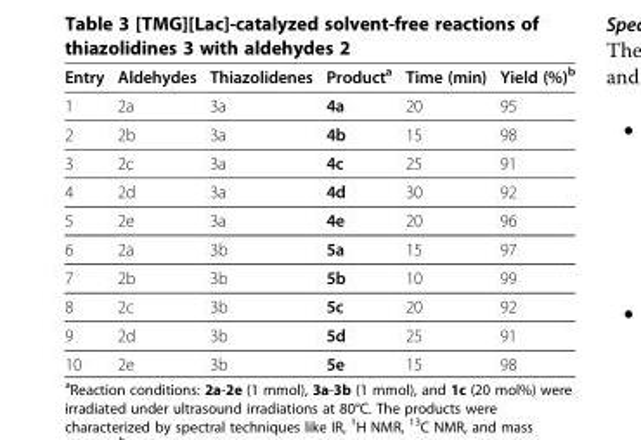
<table><thead><tr><td>Entry</td><td>Aldehydes</td><td>Thiazolidenes</td><td>Product<sup>a</sup></td><td>Time (min)</td><td>Yield (%)<sup>b</sup></td></tr></thead><tbody><tr><td>1</td><td>2a</td><td>3a</td><td>4a</td><td>20</td><td>95</td></tr><tr><td>2</td><td>2b</td><td>3a</td><td>4b</td><td>15</td><td>98</td></tr><tr><td>3</td><td>2c</td><td>3a</td><td>4c</td><td>25</td><td>91</td></tr><tr><td>4</td><td>2d</td><td>3a</td><td>4d</td><td>30</td><td>92</td></tr><tr><td>5</td><td>2e</td><td>3a</td><td>4e</td><td>20</td><td>96</td></tr><tr><td>6</td><td>2a</td><td>3b</td><td>5a</td><td>15</td><td>97</td></tr><tr><td>7</td><td>2b</td><td>3b</td><td>5b</td><td>10</td><td>99</td></tr><tr><td>8</td><td>2c</td><td>3b</td><td>5c</td><td>20</td><td>92</td></tr><tr><td>9</td><td>2d</td><td>3b</td><td>5d</td><td>25</td><td>91</td></tr><tr><td>10</td><td>2e</td><td>3b</td><td>5e</td><td>15</td><td>98</td></tr></tbody></table>